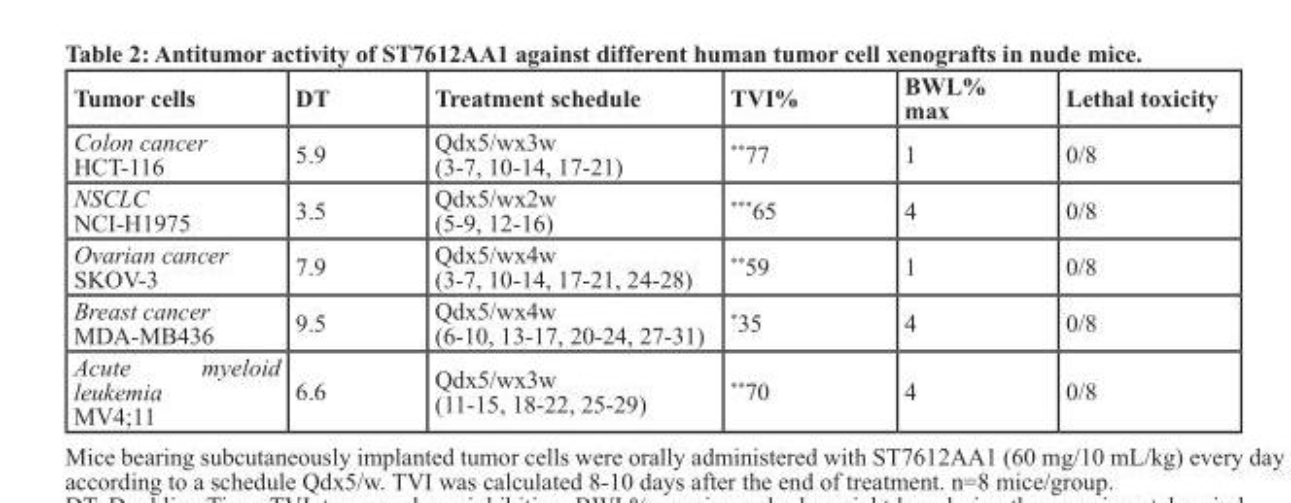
<table><thead><tr><td>Tumor cells</td><td>DT</td><td>Treatment schedule</td><td>TVI%</td><td>BWL% max</td><td>Lethal toxicity</td></tr></thead><tbody><tr><td>Colon cancer HCT-116</td><td>5.9</td><td>Qdx5/wx3w (3-7, 10-14, 17-21)</td><td>**77</td><td>1</td><td>0/8</td></tr><tr><td>NSCLC NCI-H1975</td><td>3.5</td><td>Qdx5/wx2w (5-9, 12-16)</td><td>***65</td><td>4</td><td>0/8</td></tr><tr><td>Ovarian cancer SKOV-3</td><td>7.9</td><td>Qdx5/wx4w (3-7, 10-14, 17-21, 24-28)</td><td>**59</td><td>1</td><td>0/8</td></tr><tr><td>Breast cancer MDA-MB436</td><td>9.5</td><td>Qdx5/wx4w (6-10, 13-17, 20-24, 27-31)</td><td>*35</td><td>4</td><td>0/8</td></tr><tr><td>Acute myeloid leukemia MV4;11</td><td>6.6</td><td>Qdx5/wx3w (11-15, 18-22, 25-29)</td><td>**70</td><td>4</td><td>0/8</td></tr></tbody></table>